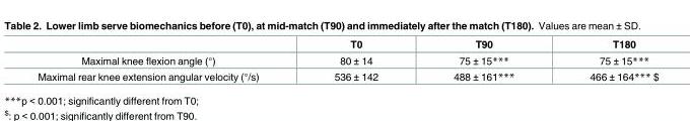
<table><thead><tr><td></td><td>T0</td><td>T90</td><td>T180</td></tr></thead><tbody><tr><td>Maximal knee flexion angle (°)</td><td>80 ± 14</td><td>75 ± 15***</td><td>75 ± 15***</td></tr><tr><td>Maximal rear knee extension angular velocity (°/s)</td><td>536 ± 142</td><td>488 ± 161***</td><td>466 ± 164***</td></tr></tbody></table>